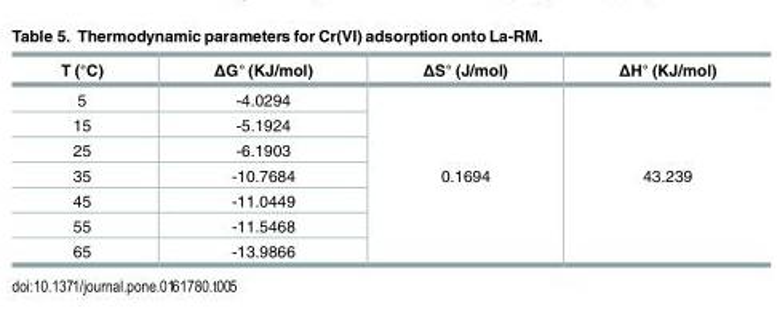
<table><thead><tr><td>T (°C)</td><td>ΔG° (KJ/mol)</td><td>ΔS° (J/mol)</td><td>ΔH° (KJ/mol)</td></tr></thead><tbody><tr><td>5</td><td>-4.0294</td><td rowspan="7">0.1694</td><td rowspan="7">43.239</td></tr><tr><td>15</td><td>-5.1924</td></tr><tr><td>25</td><td>-6.1903</td></tr><tr><td>35</td><td>-10.7684</td></tr><tr><td>45</td><td>-11.0449</td></tr><tr><td>55</td><td>-11.5468</td></tr><tr><td>65</td><td>-13.9866</td></tr></tbody></table>